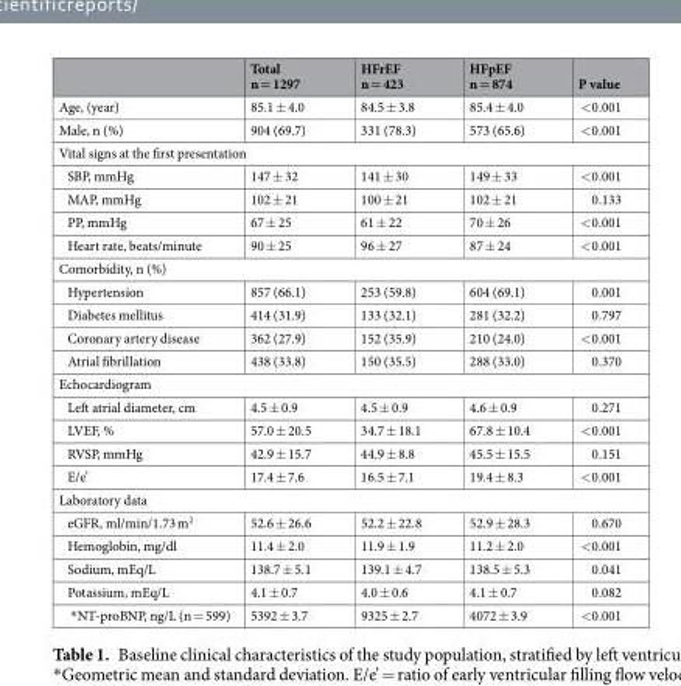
<table><thead><tr><td></td><td>Total n = 1297</td><td>HFrEF n = 423</td><td>HFpEF n = 874</td><td>P value</td></tr></thead><tbody><tr><td>Age, (year)</td><td>85.1 ± 4.0</td><td>84.5 ± 3.8</td><td>85.4 ± 4.0</td><td>&lt;0.001</td></tr><tr><td>Male, n (%)</td><td>904 (69.7)</td><td>331 (78.3)</td><td>573 (65.6)</td><td>&lt;0.001</td></tr><tr><td colspan="5">Vital signs at the first presentation</td></tr><tr><td>SBP, mmHg</td><td>147 ± 32</td><td>141 ± 30</td><td>149 ± 33</td><td>&lt;0.001</td></tr><tr><td>MAP, mmHg</td><td>102 ± 21</td><td>100 ± 21</td><td>102 ± 21</td><td>0.133</td></tr><tr><td>PP, mmHg</td><td>67 ± 25</td><td>61 ± 22</td><td>70 ± 26</td><td>&lt;0.001</td></tr><tr><td>Heart rate, beats/minute</td><td>90 ± 25</td><td>96 ± 27</td><td>87 ± 24</td><td>&lt;0.001</td></tr><tr><td colspan="5">Comorbidity, n (%)</td></tr><tr><td>Hypertension</td><td>857 (66.1)</td><td>253 (59.8)</td><td>604 (69.1)</td><td>0.001</td></tr><tr><td>Diabetes mellitus</td><td>414 (31.9)</td><td>133 (32.1)</td><td>281 (32.2)</td><td>0.797</td></tr><tr><td>Coronary artery disease</td><td>362 (27.9)</td><td>152 (35.9)</td><td>210 (24.0)</td><td>&lt;0.001</td></tr><tr><td>Atrial fibrillation</td><td>438 (33.8)</td><td>150 (35.5)</td><td>288 (33.0)</td><td>0.370</td></tr><tr><td colspan="5">Echocardiogram</td></tr><tr><td>Left atrial diameter, cm</td><td>4.5 ± 0.9</td><td>4.5 ± 0.9</td><td>4.6 ± 0.9</td><td>0.271</td></tr><tr><td>LVEF, %</td><td>57.0 ± 20.5</td><td>34.7 ± 18.1</td><td>67.8 ± 10.4</td><td>&lt;0.001</td></tr><tr><td>RVSP, mmHg</td><td>42.9 ± 15.7</td><td>44.9 ± 8.8</td><td>45.5 ± 15.5</td><td>0.151</td></tr><tr><td>E/e’</td><td>17.4 ± 7.6</td><td>16.5 ± 7.1</td><td>19.4 ± 8.3</td><td>&lt;0.001</td></tr><tr><td colspan="5">Laboratory data</td></tr><tr><td>eGFR, ml/min/1.73 m<sup>2</sup></td><td>52.6 ± 26.6</td><td>52.2 ± 22.8</td><td>52.9 ± 28.3</td><td>0.670</td></tr><tr><td>Hemoglobin, mg/dl</td><td>11.4 ± 2.0</td><td>11.9 ± 1.9</td><td>11.2 ± 2.0</td><td>&lt;0.001</td></tr><tr><td>Sodium, mEq/L</td><td>138.7 ± 5.1</td><td>139.1 ± 4.7</td><td>138.5 ± 5.3</td><td>0.041</td></tr><tr><td>Potassium, mEq/L</td><td>4.1 ± 0.7</td><td>4.0 ± 0.6</td><td>4.1 ± 0.7</td><td>0.082</td></tr><tr><td>*NT-proBNP, ng/L (n = 599)</td><td>5392 ± 3.7</td><td>9325 ± 2.7</td><td>4072 ± 3.9</td><td>&lt;0.001</td></tr></tbody></table>